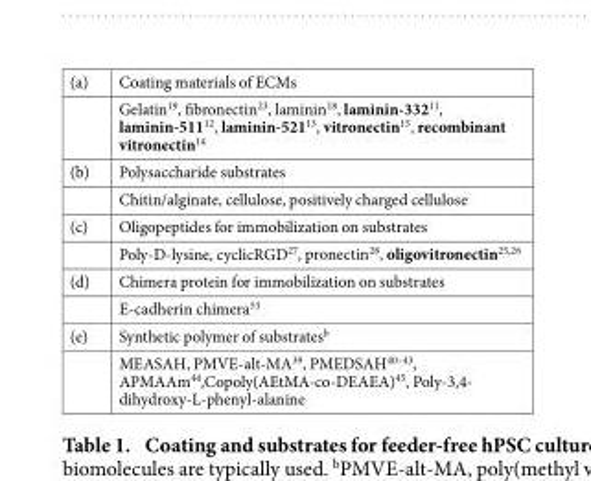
<table><tbody><tr><td rowspan="2">(a)</td><td>Coating materials of ECMs</td></tr><tr><td>Gelatin<sup>19</sup>, fibronectin<sup>23</sup>, laminin<sup>18</sup>, laminin-332<sup>11</sup>, laminin-511<sup>12</sup>, laminin-521<sup>13</sup>, vitronectin<sup>15</sup>, recombinant vitronectin<sup>14</sup></td></tr><tr><td rowspan="2">(b)</td><td>Polysaccharide substrates</td></tr><tr><td>Chitin/alginate, cellulose, positively charged cellulose</td></tr><tr><td rowspan="2">(c)</td><td>Oligopeptides for immobilization on substrates</td></tr><tr><td>Poly-D-lysine, cyclicRGD<sup>27</sup>, pronectin<sup>28</sup>, oligovitronectin<sup>25</sup>,<sup>26</sup></td></tr><tr><td rowspan="2">(d)</td><td>Chimera protein for immobilization on substrates</td></tr><tr><td>E-cadherin chimera<sup>53</sup></td></tr><tr><td rowspan="2">(e)</td><td>Synthetic polymer of substrates<sup>b</sup></td></tr><tr><td>MEASAH, PMVE-alt-MA39, PMEDSAH40–43, APMAAm44,Copoly(AEtMA-co-DEAEA)45, Poly-3,4- dihydroxy-L-phenyl-alanine</td></tr></tbody></table>